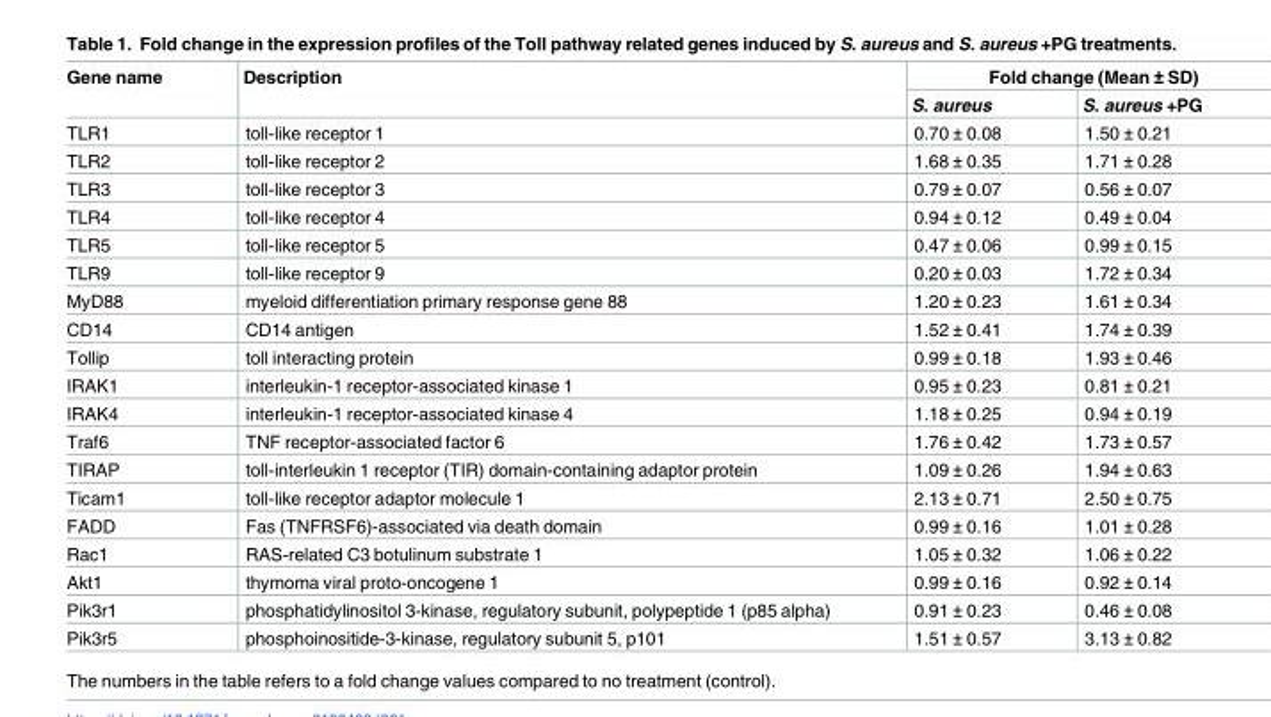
<table><thead><tr><td rowspan="2">Gene name</td><td rowspan="2">Description</td><td colspan="2">Fold change (Mean ± SD)</td></tr><tr><td>S. aureus</td><td>S. aureus +PG</td></tr></thead><tbody><tr><td>TLR1</td><td>toll-like receptor 1</td><td>0.70 ± 0.08</td><td>1.50 ± 0.21</td></tr><tr><td>TLR2</td><td>toll-like receptor 2</td><td>1.68 ± 0.35</td><td>1.71 ± 0.28</td></tr><tr><td>TLR3</td><td>toll-like receptor 3</td><td>0.79 ± 0.07</td><td>0.56 ± 0.07</td></tr><tr><td>TLR4</td><td>toll-like receptor 4</td><td>0.94 ± 0.12</td><td>0.49 ± 0.04</td></tr><tr><td>TLR5</td><td>toll-like receptor 5</td><td>0.47 ± 0.06</td><td>0.99 ± 0.15</td></tr><tr><td>TLR9</td><td>toll-like receptor 9</td><td>0.20 ± 0.03</td><td>1.72 ± 0.34</td></tr><tr><td>MyD88</td><td>myeloid differentiation primary response gene 88</td><td>1.20 ± 0.23</td><td>1.61 ± 0.34</td></tr><tr><td>CD14</td><td>CD14 antigen</td><td>1.52 ± 0.41</td><td>1.74 ± 0.39</td></tr><tr><td>Tollip</td><td>toll interacting protein</td><td>0.99 ± 0.18</td><td>1.93 ± 0.46</td></tr><tr><td>IRAK1</td><td>interleukin-1 receptor-associated kinase 1</td><td>0.95 ± 0.23</td><td>0.81 ± 0.21</td></tr><tr><td>IRAK4</td><td>interleukin-1 receptor-associated kinase 4</td><td>1.18 ± 0.25</td><td>0.94 ± 0.19</td></tr><tr><td>Traf6</td><td>TNF receptor-associated factor 6</td><td>1.76 ± 0.42</td><td>1.73 ± 0.57</td></tr><tr><td>TIRAP</td><td>toll-interleukin 1 receptor (TIR) domain-containing adaptor protein</td><td>1.09 ± 0.26</td><td>1.94 ± 0.63</td></tr><tr><td>Ticam1</td><td>toll-like receptor adaptor molecule 1</td><td>2.13 ± 0.71</td><td>2.50 ± 0.75</td></tr><tr><td>FADD</td><td>Fas (TNFRSF6)-associated via death domain</td><td>0.99 ± 0.16</td><td>1.01 ± 0.28</td></tr><tr><td>Rac1</td><td>RAS-related C3 botulinum substrate 1</td><td>1.05 ± 0.32</td><td>1.06 ± 0.22</td></tr><tr><td>Akt1</td><td>thymoma viral proto-oncogene 1</td><td>0.99 ± 0.16</td><td>0.92 ± 0.14</td></tr><tr><td>Pik3r1</td><td>phosphatidylinositol 3-kinase, regulatory subunit, polypeptide 1 (p85 alpha)</td><td>0.91 ± 0.23</td><td>0.46 ± 0.08</td></tr><tr><td>Pik3r5</td><td>phosphoinositide-3-kinase, regulatory subunit 5, p101</td><td>1.51 ± 0.57</td><td>3.13 ± 0.82</td></tr></tbody></table>